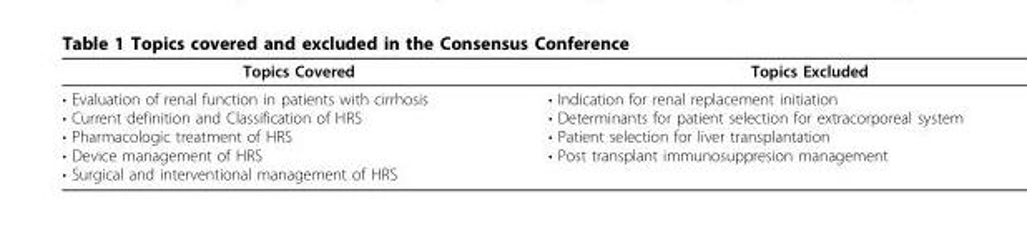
<table><thead><tr><td>Topics Covered</td><td>Topics Excluded</td></tr></thead><tbody><tr><td>• Evaluation of renal function in patients with cirrhosis • Current definition and Classification of HRS • Pharmacologic treatment of HRS • Device management of HRS • Surgical and interventional management of HRS</td><td>• Indication for renal replacement initiation • Determinants for patient selection for extracorporeal system • Patient selection for liver transplantation • Post transplant immunosuppresion management</td></tr></tbody></table>